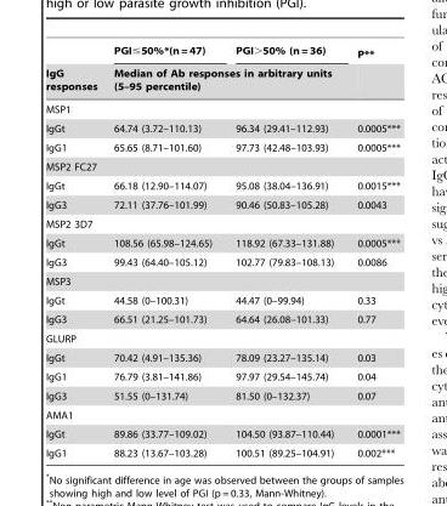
<table><thead><tr><td rowspan="2">IgG responses</td><td>PGI≤50%*(n = 47)</td><td>PGI&gt;50% (n = 36)</td><td rowspan="2">P**</td></tr><tr><td colspan="2">Median of Ab responses in arbitrary units (5–95 percentile)</td></tr></thead><tbody><tr><td colspan="4">MSP1</td></tr><tr><td>IgGt</td><td>64.74 (3.72–110.13)</td><td>96.34 (29.41–112.93)</td><td>0.0005***</td></tr><tr><td>IgG1</td><td>65.65 (8.71–101.60)</td><td>97.73 (42.48–103.93)</td><td>0.0005***</td></tr><tr><td colspan="4">MSP2 FC27</td></tr><tr><td>IgGt</td><td>66.18 (12.90–114.07)</td><td>95.08 (38.04–136.91)</td><td>0.0015***</td></tr><tr><td>IgG3</td><td>72.11 (37.76–101.99)</td><td>90.46 (50.83–105.28)</td><td>0.0043</td></tr><tr><td colspan="4">MSP2 3D7</td></tr><tr><td>IgGt</td><td>108.56 (65.98–124.65)</td><td>118.92 (67.33–131.88)</td><td>0.0005***</td></tr><tr><td>IgG3</td><td>99.43 (64.40–105.12)</td><td>102.77 (79.83–108.13)</td><td>0.0086</td></tr><tr><td colspan="4">MSP3</td></tr><tr><td>IgGt</td><td>44.58 (0–100.31)</td><td>44.47 (0–99.94)</td><td>0.33</td></tr><tr><td>IgG3</td><td>66.51 (21.25–101.73)</td><td>64.64 (26.08–101.33)</td><td>0.77</td></tr><tr><td colspan="4">GLURP</td></tr><tr><td>IgGt</td><td>70.42 (4.91–135.36)</td><td>78.09 (23.27–135.14)</td><td>0.03</td></tr><tr><td>IgG1</td><td>76.79 (3.81–141.86)</td><td>97.97 (29.54–145.74)</td><td>0.04</td></tr><tr><td>IgG3</td><td>51.55 (0–131.74)</td><td>81.50 (0–132.37)</td><td>0.07</td></tr><tr><td colspan="4">AMA1</td></tr><tr><td>IgGt</td><td>89.86 (33.77–109.02)</td><td>104.50 (93.87–110.44)</td><td>0.0001***</td></tr><tr><td>IgG1</td><td>88.23 (13.67–103.28)</td><td>100.51 (89.25–104.91)</td><td>0.002***</td></tr></tbody></table>